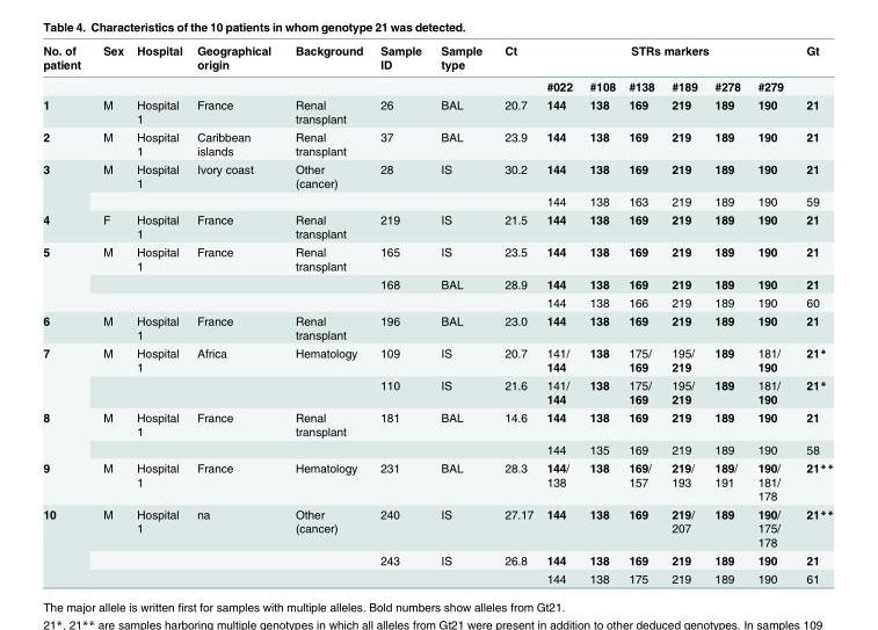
<table><thead><tr><td rowspan="2">No. of patient</td><td rowspan="2">Sex</td><td rowspan="2">Hospital</td><td rowspan="2">Geographical origin</td><td rowspan="2">Background</td><td rowspan="2">Sample ID</td><td rowspan="2">Sample type</td><td rowspan="2">Ct</td><td colspan="6">STRs markers</td><td rowspan="2">Gt</td></tr><tr><td>#022</td><td>#108</td><td>#138</td><td>#189</td><td>#278</td><td>#279</td></tr></thead><tbody><tr><td>1</td><td>M</td><td>Hospital 1</td><td>France</td><td>Renal transplant</td><td>26</td><td>BAL</td><td>20.7</td><td>144</td><td>138</td><td>169</td><td>219</td><td>189</td><td>190</td><td>21</td></tr><tr><td>2</td><td>M</td><td>Hospital 1</td><td>Caribbean islands</td><td>Renal transplant</td><td>37</td><td>BAL</td><td>23.9</td><td>144</td><td>138</td><td>169</td><td>219</td><td>189</td><td>190</td><td>21</td></tr><tr><td rowspan="2">3</td><td>M</td><td>Hospital 1</td><td>Ivory coast</td><td>Other (cancer)</td><td>28</td><td>IS</td><td>30.2</td><td>144</td><td>138</td><td>169</td><td>219</td><td>189</td><td>190</td><td>21</td></tr><tr><td></td><td></td><td></td><td></td><td></td><td></td><td></td><td>144</td><td>138</td><td>163</td><td>219</td><td>189</td><td>190</td><td>59</td></tr><tr><td>4</td><td>F</td><td>Hospital 1</td><td>France</td><td>Renal transplant</td><td>219</td><td>IS</td><td>21.5</td><td>144</td><td>138</td><td>169</td><td>219</td><td>189</td><td>190</td><td>21</td></tr><tr><td rowspan="3">5</td><td>M</td><td>Hospital 1</td><td>France</td><td>Renal transplant</td><td>165</td><td>IS</td><td>23.5</td><td>144</td><td>138</td><td>169</td><td>219</td><td>189</td><td>190</td><td>21</td></tr><tr><td></td><td></td><td></td><td></td><td>168</td><td>BAL</td><td>28.9</td><td>144</td><td>138</td><td>169</td><td>219</td><td>189</td><td>190</td><td>21</td></tr><tr><td></td><td></td><td></td><td></td><td></td><td></td><td></td><td>144</td><td>138</td><td>166</td><td>219</td><td>189</td><td>190</td><td>60</td></tr><tr><td>6</td><td>M</td><td>Hospital 1</td><td>France</td><td>Renal transplant</td><td>196</td><td>BAL</td><td>23.0</td><td>144</td><td>138</td><td>169</td><td>219</td><td>189</td><td>190</td><td>21</td></tr><tr><td rowspan="2">7</td><td>M</td><td>Hospital 1</td><td>Africa</td><td>Hematology</td><td>109</td><td>IS</td><td>20.7</td><td>141/ 144</td><td>138</td><td>175/ 169</td><td>195/ 219</td><td>189</td><td>181/ 190</td><td>21*</td></tr><tr><td></td><td></td><td></td><td></td><td>110</td><td>IS</td><td>21.6</td><td>141/ 144</td><td>138</td><td>175/ 169</td><td>195/ 219</td><td>189</td><td>181/ 190</td><td>21*</td></tr><tr><td rowspan="2">8</td><td>M</td><td>Hospital 1</td><td>France</td><td>Renal transplant</td><td>181</td><td>BAL</td><td>14.6</td><td>144</td><td>138</td><td>169</td><td>219</td><td>189</td><td>190</td><td>21</td></tr><tr><td></td><td></td><td></td><td></td><td></td><td></td><td></td><td>144</td><td>135</td><td>169</td><td>219</td><td>189</td><td>190</td><td>58</td></tr><tr><td>9</td><td>M</td><td>Hospital 1</td><td>France</td><td>Hematology</td><td>231</td><td>BAL</td><td>28.3</td><td>144/ 138</td><td>138</td><td>169/ 157</td><td>219/ 193</td><td>189/ 191</td><td>190/ 181/ 178</td><td>21**</td></tr><tr><td rowspan="3">10</td><td>M</td><td>Hospital 1</td><td>na</td><td>Other (cancer)</td><td>240</td><td>IS</td><td>27.17</td><td>144</td><td>138</td><td>169</td><td>219/ 207</td><td>189</td><td>190/ 175/ 178</td><td>21**</td></tr><tr><td></td><td></td><td></td><td></td><td>243</td><td>IS</td><td>26.8</td><td>144</td><td>138</td><td>169</td><td>219</td><td>189</td><td>190</td><td>21</td></tr><tr><td></td><td></td><td></td><td></td><td></td><td></td><td></td><td>144</td><td>138</td><td>175</td><td>219</td><td>189</td><td>190</td><td>61</td></tr></tbody></table>